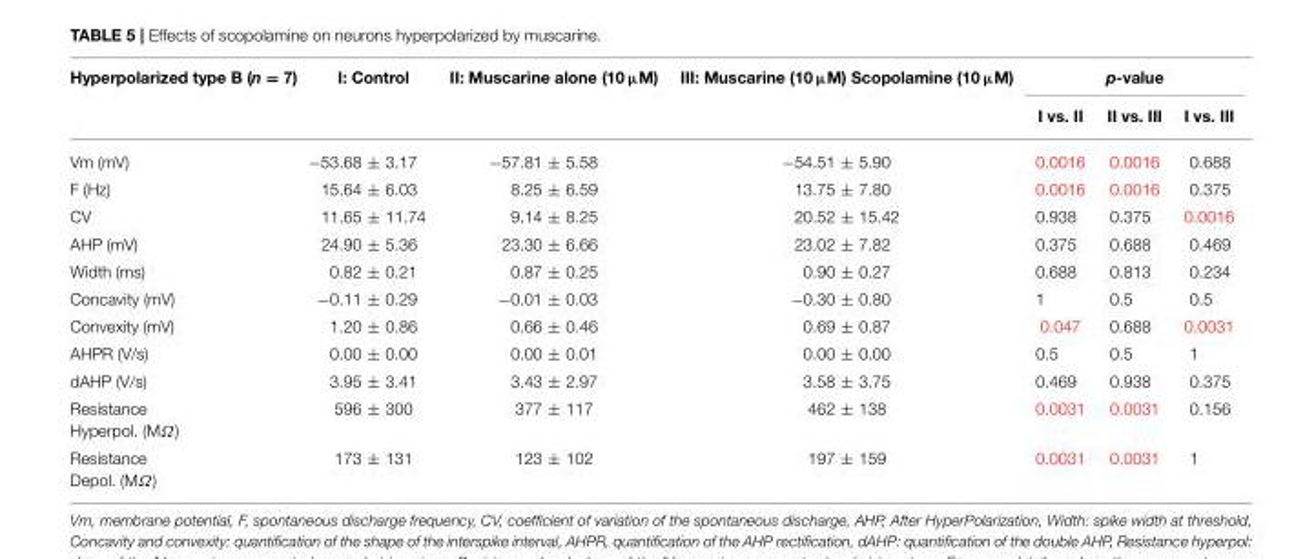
<table><thead><tr><td rowspan="2">Hyperpolarized type B (n = 7)</td><td rowspan="2">I: Control</td><td rowspan="2">II: Muscarine alone (10 µM)</td><td rowspan="2">III: Muscarine (10 µM) Scopolamine (10 µM)</td><td colspan="3">p-value</td></tr><tr><td>I vs. II</td><td>II vs. III</td><td>I vs. III</td></tr></thead><tbody><tr><td>Vm (mV)</td><td>−53.68 ± 3.17</td><td>−57.81 ± 5.58</td><td>−54.51 ± 5.90</td><td>0.0016</td><td>0.0016</td><td>0.688</td></tr><tr><td>F (Hz)</td><td>15.64 ± 6.03</td><td>8.25 ± 6.59</td><td>13.75 ± 7.80</td><td>0.0016</td><td>0.0016</td><td>0.375</td></tr><tr><td>CV</td><td>11.65 ± 11.74</td><td>9.14 ± 8.25</td><td>20.52 ± 15.42</td><td>0.938</td><td>0.375</td><td>0.0016</td></tr><tr><td>AHP (mV)</td><td>24.90 ± 5.36</td><td>23.30 ± 6.66</td><td>23.02 ± 7.82</td><td>0.375</td><td>0.688</td><td>0.469</td></tr><tr><td>Width (ms)</td><td>0.82 ± 0.21</td><td>0.87 ± 0.25</td><td>0.90 ± 0.27</td><td>0.688</td><td>0.813</td><td>0.234</td></tr><tr><td>Concavity (mV)</td><td>−0.11 ± 0.29</td><td>−0.01 ± 0.03</td><td>−0.30 ± 0.80</td><td>1</td><td>0.5</td><td>0.5</td></tr><tr><td>Convexity (mV)</td><td>1.20 ± 0.86</td><td>0.66 ± 0.46</td><td>0.69 ± 0.87</td><td>0.047</td><td>0.688</td><td>0.0031</td></tr><tr><td>AHPR (V/s)</td><td>0.00 ± 0.00</td><td>0.00 ± 0.01</td><td>0.00 ± 0.00</td><td>0.5</td><td>0.5</td><td>1</td></tr><tr><td>dAHP (V/s)</td><td>3.95 ± 3.41</td><td>3.43 ± 2.97</td><td>3.58 ± 3.75</td><td>0.469</td><td>0.938</td><td>0.375</td></tr><tr><td>Resistance Hyperpol. (MΩ)</td><td>596 ± 300</td><td>377 ± 117</td><td>462 ± 138</td><td>0.0031</td><td>0.0031</td><td>0.156</td></tr><tr><td>Resistance Depol. (MΩ)</td><td>173 ± 131</td><td>123 ± 102</td><td>197 ± 159</td><td>0.0031</td><td>0.0031</td><td>1</td></tr></tbody></table>